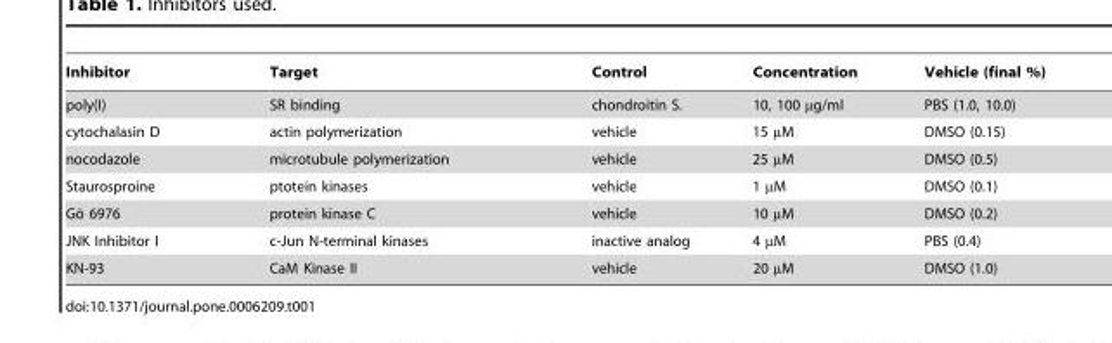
<table><thead><tr><td>Inhibitor</td><td>Target</td><td>Control</td><td>Concentration</td><td>Vehicle (final %)</td></tr></thead><tbody><tr><td>poly(I)</td><td>SR binding</td><td>chondroitin S.</td><td>10, 100 µg/ml</td><td>PBS (1.0, 10.0)</td></tr><tr><td>cytochalasin D</td><td>actin polymerization</td><td>vehicle</td><td>15 µM</td><td>DMSO (0.15)</td></tr><tr><td>nocodazole</td><td>microtubule polymerization</td><td>vehicle</td><td>25 µM</td><td>DMSO (0.5)</td></tr><tr><td>Staurosproine</td><td>ptotein kinases</td><td>vehicle</td><td>1 µM</td><td>DMSO (0.1)</td></tr><tr><td>Go¨ 6976</td><td>protein kinase C</td><td>vehicle</td><td>10 µM</td><td>DMSO (0.2)</td></tr><tr><td>JNK Inhibitor I</td><td>c-Jun N-terminal kinases</td><td>inactive analog</td><td>4 µM</td><td>PBS (0.4)</td></tr><tr><td>KN-93</td><td>CaM Kinase II</td><td>vehicle</td><td>20 µM</td><td>DMSO (1.0)</td></tr></tbody></table>